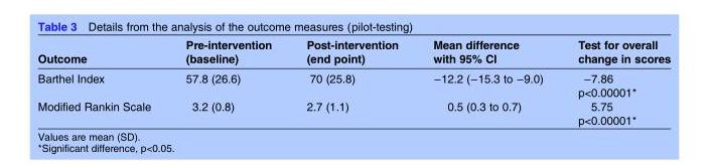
<table><thead><tr><td>Outcome</td><td>Pre-intervention (baseline)</td><td>Post-intervention (end point)</td><td>Mean difference with 95% CI</td><td>Test for overall change in scores</td></tr></thead><tbody><tr><td>Barthel Index</td><td>57.8 (26.6)</td><td>70 (25.8)</td><td>−12.2 (−15.3 to −9.0)</td><td>−7.86 p&lt;0.00001*</td></tr><tr><td>Modified Rankin Scale</td><td>3.2 (0.8)</td><td>2.7 (1.1)</td><td>0.5 (0.3 to 0.7)</td><td>5.75 p&lt;0.00001*</td></tr></tbody></table>